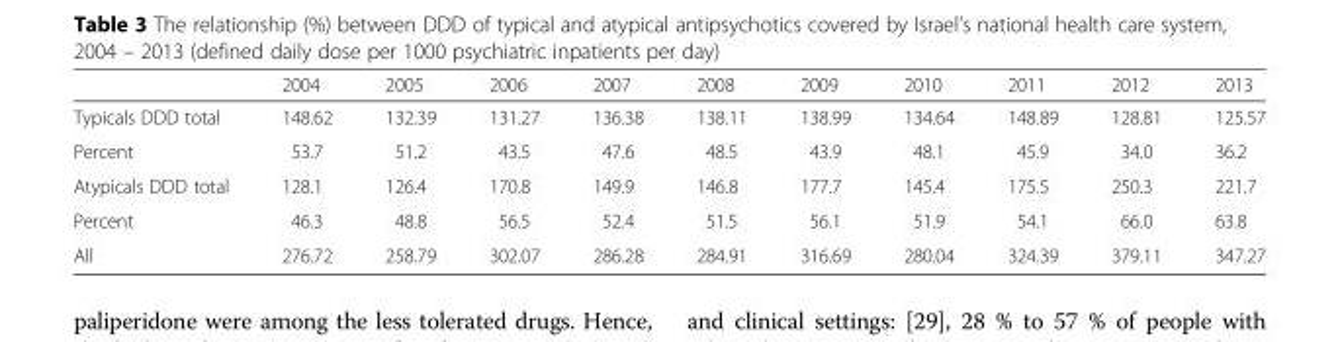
<table><thead><tr><td></td><td>2004</td><td>2005</td><td>2006</td><td>2007</td><td>2008</td><td>2009</td><td>2010</td><td>2011</td><td>2012</td><td>2013</td></tr></thead><tbody><tr><td>Typicals DDD total</td><td>148.62</td><td>132.39</td><td>131.27</td><td>136.38</td><td>138.11</td><td>138.99</td><td>134.64</td><td>148.89</td><td>128.81</td><td>125.57</td></tr><tr><td>Percent</td><td>53.7</td><td>51.2</td><td>43.5</td><td>47.6</td><td>48.5</td><td>43.9</td><td>48.1</td><td>45.9</td><td>34.0</td><td>36.2</td></tr><tr><td>Atypicals DDD total</td><td>128.1</td><td>126.4</td><td>170.8</td><td>149.9</td><td>146.8</td><td>177.7</td><td>145.4</td><td>175.5</td><td>250.3</td><td>221.7</td></tr><tr><td>Percent</td><td>46.3</td><td>48.8</td><td>56.5</td><td>52.4</td><td>51.5</td><td>56.1</td><td>51.9</td><td>54.1</td><td>66.0</td><td>63.8</td></tr><tr><td>All</td><td>276.72</td><td>258.79</td><td>302.07</td><td>286.28</td><td>284.91</td><td>316.69</td><td>280.04</td><td>324.39</td><td>379.11</td><td>347.27</td></tr></tbody></table>